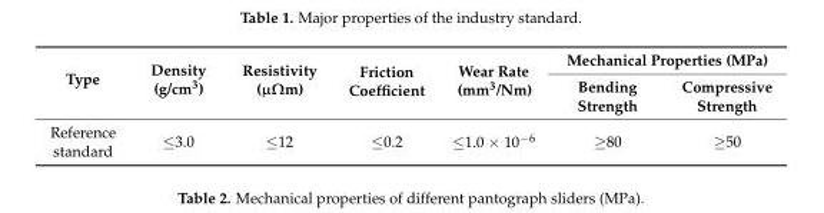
<table><thead><tr><td rowspan="2">Type</td><td rowspan="2">Density (g/cm<sup>3</sup>)</td><td rowspan="2">Resistivity (µΩm)</td><td rowspan="2">Friction Coefficient</td><td rowspan="2">Wear Rate (mm<sup>3</sup>/Nm)</td><td colspan="2">Mechanical Properties (MPa)</td></tr><tr><td>Bending Strength</td><td>Compressive Strength</td></tr></thead><tbody><tr><td>Reference standard</td><td>≤3.0</td><td>≤12</td><td>≤0.2</td><td>≤1.0 × 10<sup>−6</sup></td><td>≥80</td><td>≥50</td></tr></tbody></table>